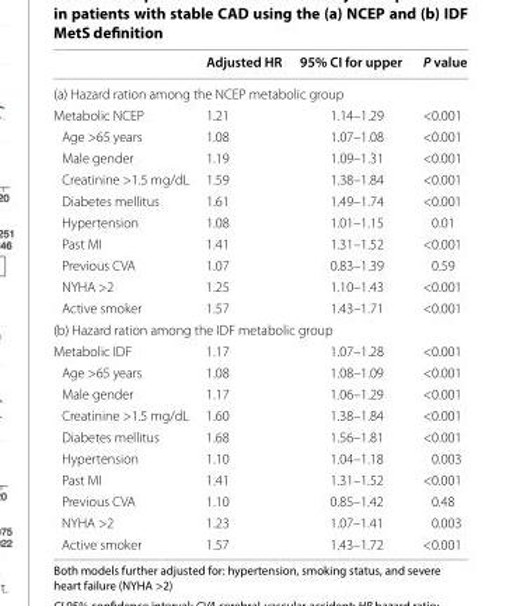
<table><thead><tr><td></td><td>Adjusted HR</td><td>95% CI for upper</td><td>P value</td></tr></thead><tbody><tr><td colspan="4">(a) Hazard ration among the NCEP metabolic group</td></tr><tr><td>Metabolic NCEP</td><td>1.21</td><td>1.14–1.29</td><td>&lt;0.001</td></tr><tr><td>Age &gt;65 years</td><td>1.08</td><td>1.07–1.08</td><td>&lt;0.001</td></tr><tr><td>Male gender</td><td>1.19</td><td>1.09–1.31</td><td>&lt;0.001</td></tr><tr><td>Creatinine &gt;1.5 mg/dL</td><td>1.59</td><td>1.38–1.84</td><td>&lt;0.001</td></tr><tr><td>Diabetes mellitus</td><td>1.61</td><td>1.49–1.74</td><td>&lt;0.001</td></tr><tr><td>Hypertension</td><td>1.08</td><td>1.01–1.15</td><td>0.01</td></tr><tr><td>Past MI</td><td>1.41</td><td>1.31–1.52</td><td>&lt;0.001</td></tr><tr><td>Previous CVA</td><td>1.07</td><td>0.83–1.39</td><td>0.59</td></tr><tr><td>NYHA &gt;2</td><td>1.25</td><td>1.10–1.43</td><td>&lt;0.001</td></tr><tr><td>Active smoker</td><td>1.57</td><td>1.43–1.71</td><td>&lt;0.001</td></tr><tr><td colspan="4">(b) Hazard ration among the IDF metabolic group</td></tr><tr><td>Metabolic IDF</td><td>1.17</td><td>1.07–1.28</td><td>&lt;0.001</td></tr><tr><td>Age &gt;65 years</td><td>1.08</td><td>1.08–1.09</td><td>&lt;0.001</td></tr><tr><td>Male gender</td><td>1.17</td><td>1.06–1.29</td><td>&lt;0.001</td></tr><tr><td>Creatinine &gt;1.5 mg/dL</td><td>1.60</td><td>1.38–1.84</td><td>&lt;0.001</td></tr><tr><td>Diabetes mellitus</td><td>1.68</td><td>1.56–1.81</td><td>&lt;0.001</td></tr><tr><td>Hypertension</td><td>1.10</td><td>1.04–1.18</td><td>0.003</td></tr><tr><td>Past MI</td><td>1.41</td><td>1.31–1.52</td><td>&lt;0.001</td></tr><tr><td>Previous CVA</td><td>1.10</td><td>0.85–1.42</td><td>0.48</td></tr><tr><td>NYHA &gt;2</td><td>1.23</td><td>1.07–1.41</td><td>0.003</td></tr><tr><td>Active smoker</td><td>1.57</td><td>1.43–1.72</td><td>&lt;0.001</td></tr></tbody></table>